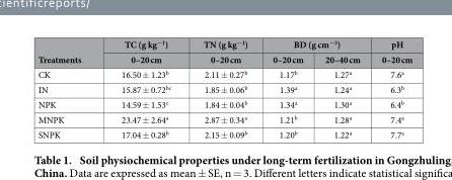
<table><thead><tr><td rowspan="2">Treatments</td><td rowspan="2">TC (g kg<sup>−1</sup>) 0–20 cm</td><td rowspan="2">TN (g kg<sup>−1</sup>) 0–20 cm</td><td colspan="2">BD (g cm<sup>−3</sup>)</td><td rowspan="2">pH 0–20 cm</td></tr><tr><td>0–20 cm</td><td>20–40 cm</td></tr></thead><tbody><tr><td>CK</td><td>16.50 ± 1.23<sup>b</sup></td><td>2.11 ± 0.27<sup>b</sup></td><td>1.17<sup>b</sup></td><td>1.27<sup>a</sup></td><td>7.6<sup>a</sup></td></tr><tr><td>IN</td><td>15.87 ± 0.72<sup>bc</sup></td><td>1.85 ± 0.06<sup>b</sup></td><td>1.39<sup>a</sup></td><td>1.24<sup>a</sup></td><td>6.3<sup>b</sup></td></tr><tr><td>NPK</td><td>14.59 ± 1.53<sup>c</sup></td><td>1.84 ± 0.04<sup>b</sup></td><td>1.34<sup>a</sup></td><td>1.30<sup>a</sup></td><td>6.4<sup>b</sup></td></tr><tr><td>MNPK</td><td>23.47 ± 2.64<sup>a</sup></td><td>2.87 ± 0.34<sup>a</sup></td><td>1.21<sup>b</sup></td><td>1.28<sup>a</sup></td><td>7.4<sup>a</sup></td></tr><tr><td>SNPK</td><td>17.04 ± 0.28<sup>b</sup></td><td>2.15 ± 0.09<sup>b</sup></td><td>1.20<sup>b</sup></td><td>1.22<sup>a</sup></td><td>7.7<sup>a</sup></td></tr></tbody></table>